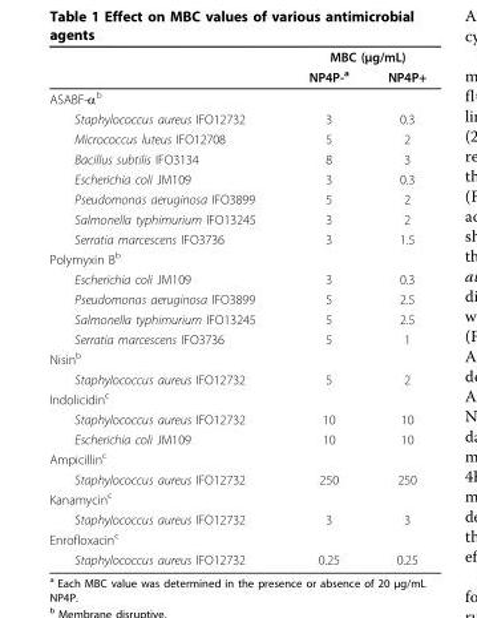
<table><thead><tr><td rowspan="2"></td><td colspan="2">MBC (μg/mL)</td></tr><tr><td>NP4P-<sup>a</sup></td><td>NP4P+</td></tr></thead><tbody><tr><td colspan="3">ASABF-α<sup>b</sup></td></tr><tr><td>Staphylococcus aureus IFO12732</td><td>3</td><td>0.3</td></tr><tr><td>Micrococcus luteus IFO12708</td><td>5</td><td>2</td></tr><tr><td>Bacillus subtilis IFO3134</td><td>8</td><td>3</td></tr><tr><td>Escherichia coli JM109</td><td>3</td><td>0.3</td></tr><tr><td>Pseudomonas aeruginosa IFO3899</td><td>5</td><td>2</td></tr><tr><td>Salmonella typhimurium IFO13245</td><td>3</td><td>2</td></tr><tr><td>Serratia marcescens IFO3736</td><td>3</td><td>1.5</td></tr><tr><td colspan="3">Polymyxin B<sup>b</sup></td></tr><tr><td>Escherichia coli JM109</td><td>3</td><td>0.3</td></tr><tr><td>Pseudomonas aeruginosa IFO3899</td><td>5</td><td>2.5</td></tr><tr><td>Salmonella typhimurium IFO13245</td><td>5</td><td>2.5</td></tr><tr><td>Serratia marcescens IFO3736</td><td>5</td><td>1</td></tr><tr><td colspan="3">Nisin<sup>b</sup></td></tr><tr><td>Staphylococcus aureus IFO12732</td><td>5</td><td>2</td></tr><tr><td colspan="3">Indolicidin<sup>c</sup></td></tr><tr><td>Staphylococcus aureus IFO12732</td><td>10</td><td>10</td></tr><tr><td>Escherichia coli JM109</td><td>10</td><td>10</td></tr><tr><td colspan="3">Ampicillin<sup>c</sup></td></tr><tr><td>Staphylococcus aureus IFO12732</td><td>250</td><td>250</td></tr><tr><td colspan="3">Kanamycin<sup>c</sup></td></tr><tr><td>Staphylococcus aureus IFO12732</td><td>3</td><td>3</td></tr><tr><td colspan="3">Enrofloxacin<sup>c</sup></td></tr><tr><td>Staphylococcus aureus IFO12732</td><td>0.25</td><td>0.25</td></tr></tbody></table>